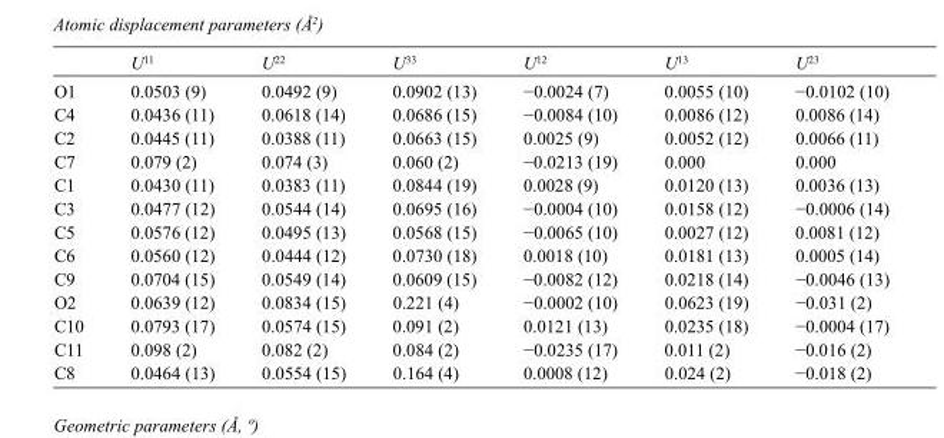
<table><thead><tr><td></td><td>U<sup>11</sup></td><td>U<sup>22</sup></td><td>U<sup>33</sup></td><td>U<sup>12</sup></td><td>U<sup>13</sup></td><td>U<sup>23</sup></td></tr></thead><tbody><tr><td>O1</td><td>0.0503 (9)</td><td>0.0492 (9)</td><td>0.0902 (13)</td><td>−0.0024 (7)</td><td>0.0055 (10)</td><td>−0.0102 (10)</td></tr><tr><td>C4</td><td>0.0436 (11)</td><td>0.0618 (14)</td><td>0.0686 (15)</td><td>−0.0084 (10)</td><td>0.0086 (12)</td><td>0.0086 (14)</td></tr><tr><td>C2</td><td>0.0445 (11)</td><td>0.0388 (11)</td><td>0.0663 (15)</td><td>0.0025 (9)</td><td>0.0052 (12)</td><td>0.0066 (11)</td></tr><tr><td>C7</td><td>0.079 (2)</td><td>0.074 (3)</td><td>0.060 (2)</td><td>−0.0213 (19)</td><td>0.000</td><td>0.000</td></tr><tr><td>C1</td><td>0.0430 (11)</td><td>0.0383 (11)</td><td>0.0844 (19)</td><td>0.0028 (9)</td><td>0.0120 (13)</td><td>0.0036 (13)</td></tr><tr><td>C3</td><td>0.0477 (12)</td><td>0.0544 (14)</td><td>0.0695 (16)</td><td>−0.0004 (10)</td><td>0.0158 (12)</td><td>−0.0006 (14)</td></tr><tr><td>C5</td><td>0.0576 (12)</td><td>0.0495 (13)</td><td>0.0568 (15)</td><td>−0.0065 (10)</td><td>0.0027 (12)</td><td>0.0081 (12)</td></tr><tr><td>C6</td><td>0.0560 (12)</td><td>0.0444 (12)</td><td>0.0730 (18)</td><td>0.0018 (10)</td><td>0.0181 (13)</td><td>0.0005 (14)</td></tr><tr><td>C9</td><td>0.0704 (15)</td><td>0.0549 (14)</td><td>0.0609 (15)</td><td>−0.0082 (12)</td><td>0.0218 (14)</td><td>−0.0046 (13)</td></tr><tr><td>O2</td><td>0.0639 (12)</td><td>0.0834 (15)</td><td>0.221 (4)</td><td>−0.0002 (10)</td><td>0.0623 (19)</td><td>−0.031 (2)</td></tr><tr><td>C10</td><td>0.0793 (17)</td><td>0.0574 (15)</td><td>0.091 (2)</td><td>0.0121 (13)</td><td>0.0235 (18)</td><td>−0.0004 (17)</td></tr><tr><td>C11</td><td>0.098 (2)</td><td>0.082 (2)</td><td>0.084 (2)</td><td>−0.0235 (17)</td><td>0.011 (2)</td><td>−0.016 (2)</td></tr><tr><td>C8</td><td>0.0464 (13)</td><td>0.0554 (15)</td><td>0.164 (4)</td><td>0.0008 (12)</td><td>0.024 (2)</td><td>−0.018 (2)</td></tr></tbody></table>